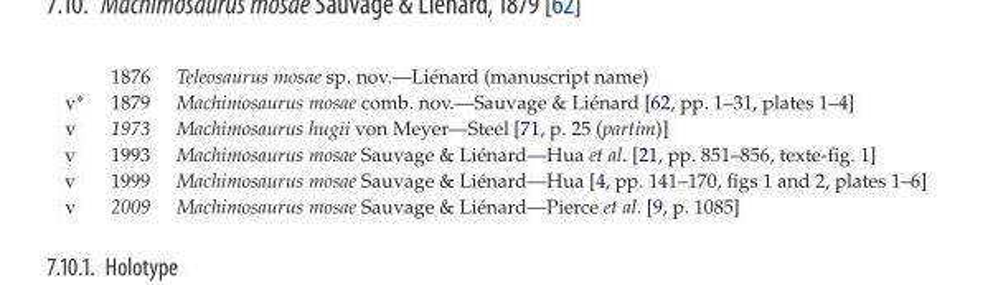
<table><thead><tr><td></td><td>1876</td><td>Teleosaurus mosae sp. nov.—Liénard (manuscript name)</td></tr></thead><tbody><tr><td>v∗</td><td>1879</td><td>Machimosaurus mosae comb. nov.—Sauvage &amp; Liénard [62, pp. 1–31, plates 1–4]</td></tr><tr><td>v</td><td>1973</td><td>Machimosaurus hugii von Meyer—Steel [71, p. 25 (partim)]</td></tr><tr><td>v</td><td>1993</td><td>Machimosaurus mosae Sauvage &amp; Liénard—Hua et al. [21, pp. 851–856, texte-fig. 1]</td></tr><tr><td>v</td><td>1999</td><td>Machimosaurus mosae Sauvage &amp; Liénard—Hua [4, pp. 141–170, figs 1 and 2, plates 1–6]</td></tr><tr><td>v</td><td>2009</td><td>Machimosaurus mosae Sauvage &amp; Liénard—Pierce et al. [9, p. 1085]</td></tr></tbody></table>